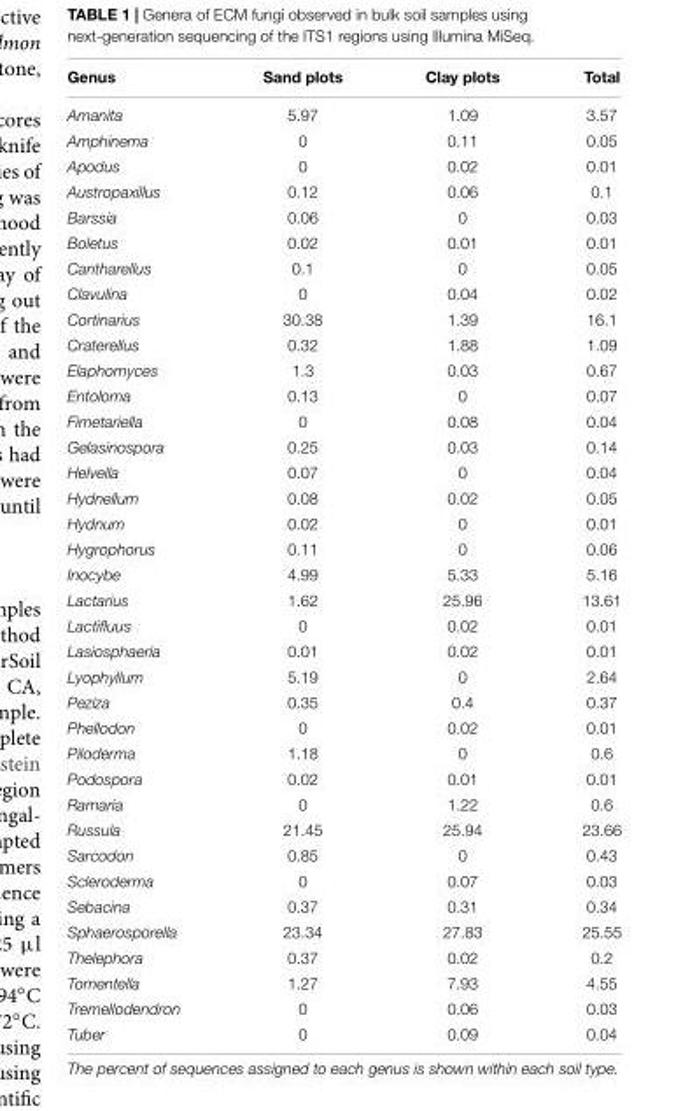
<table><thead><tr><td>Genus</td><td>Sand plots</td><td>Clay plots</td><td>Total</td></tr></thead><tbody><tr><td>Amanita</td><td>5.97</td><td>1.09</td><td>3.57</td></tr><tr><td>Amphinema</td><td>0</td><td>0.11</td><td>0.05</td></tr><tr><td>Apodus</td><td>0</td><td>0.02</td><td>0.01</td></tr><tr><td>Austropaxillus</td><td>0.12</td><td>0.06</td><td>0.1</td></tr><tr><td>Barssia</td><td>0.06</td><td>0</td><td>0.03</td></tr><tr><td>Boletus</td><td>0.02</td><td>0.01</td><td>0.01</td></tr><tr><td>Cantharellus</td><td>0.1</td><td>0</td><td>0.05</td></tr><tr><td>Clavulina</td><td>0</td><td>0.04</td><td>0.02</td></tr><tr><td>Cortinarius</td><td>30.38</td><td>1.39</td><td>16.1</td></tr><tr><td>Craterellus</td><td>0.32</td><td>1.88</td><td>1.09</td></tr><tr><td>Elaphomyces</td><td>1.3</td><td>0.03</td><td>0.67</td></tr><tr><td>Entoloma</td><td>0.13</td><td>0</td><td>0.07</td></tr><tr><td>Fimetariella</td><td>0</td><td>0.08</td><td>0.04</td></tr><tr><td>Gelasinospora</td><td>0.25</td><td>0.03</td><td>0.14</td></tr><tr><td>Helvella</td><td>0.07</td><td>0</td><td>0.04</td></tr><tr><td>Hydnellum</td><td>0.08</td><td>0.02</td><td>0.05</td></tr><tr><td>Hydnum</td><td>0.02</td><td>0</td><td>0.01</td></tr><tr><td>Hygrophorus</td><td>0.11</td><td>0</td><td>0.06</td></tr><tr><td>Inocybe</td><td>4.99</td><td>5.33</td><td>5.16</td></tr><tr><td>Lactarius</td><td>1.62</td><td>25.96</td><td>13.61</td></tr><tr><td>Lactifluus</td><td>0</td><td>0.02</td><td>0.01</td></tr><tr><td>Lasiosphaeria</td><td>0.01</td><td>0.02</td><td>0.01</td></tr><tr><td>Lyophyllum</td><td>5.19</td><td>0</td><td>2.64</td></tr><tr><td>Peziza</td><td>0.35</td><td>0.4</td><td>0.37</td></tr><tr><td>Phellodon</td><td>0</td><td>0.02</td><td>0.01</td></tr><tr><td>Piloderma</td><td>1.18</td><td>0</td><td>0.6</td></tr><tr><td>Podospora</td><td>0.02</td><td>0.01</td><td>0.01</td></tr><tr><td>Ramaria</td><td>0</td><td>1.22</td><td>0.6</td></tr><tr><td>Russula</td><td>21.45</td><td>25.94</td><td>23.66</td></tr><tr><td>Sarcodon</td><td>0.85</td><td>0</td><td>0.43</td></tr><tr><td>Scleroderma</td><td>0</td><td>0.07</td><td>0.03</td></tr><tr><td>Sebacina</td><td>0.37</td><td>0.31</td><td>0.34</td></tr><tr><td>Sphaerosporella</td><td>23.34</td><td>27.83</td><td>25.55</td></tr><tr><td>Thelephora</td><td>0.37</td><td>0.02</td><td>0.2</td></tr><tr><td>Tomentella</td><td>1.27</td><td>7.93</td><td>4.55</td></tr><tr><td>Tremellodendron</td><td>0</td><td>0.06</td><td>0.03</td></tr><tr><td>Tuber</td><td>0</td><td>0.09</td><td>0.04</td></tr></tbody></table>